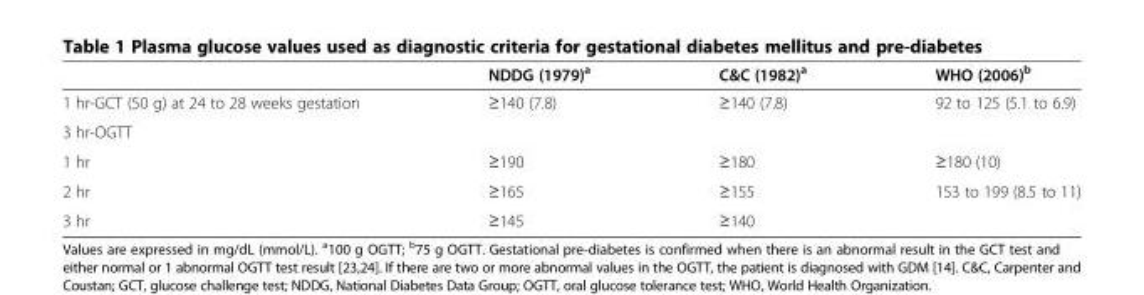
<table><thead><tr><td></td><td>NDDG (1979)<sup>a</sup></td><td>C&amp;C (1982)<sup>a</sup></td><td>WHO (2006)<sup>b</sup></td></tr></thead><tbody><tr><td>1 hr-GCT (50 g) at 24 to 28 weeks gestation</td><td>≥140 (7.8)</td><td>≥140 (7.8)</td><td>92 to 125 (5.1 to 6.9)</td></tr><tr><td colspan="4">3 hr-OGTT</td></tr><tr><td>1 hr</td><td>≥190</td><td>≥180</td><td>≥180 (10)</td></tr><tr><td>2 hr</td><td>≥165</td><td>≥155</td><td>153 to 199 (8.5 to 11)</td></tr><tr><td>3 hr</td><td>≥145</td><td>≥140</td><td></td></tr></tbody></table>